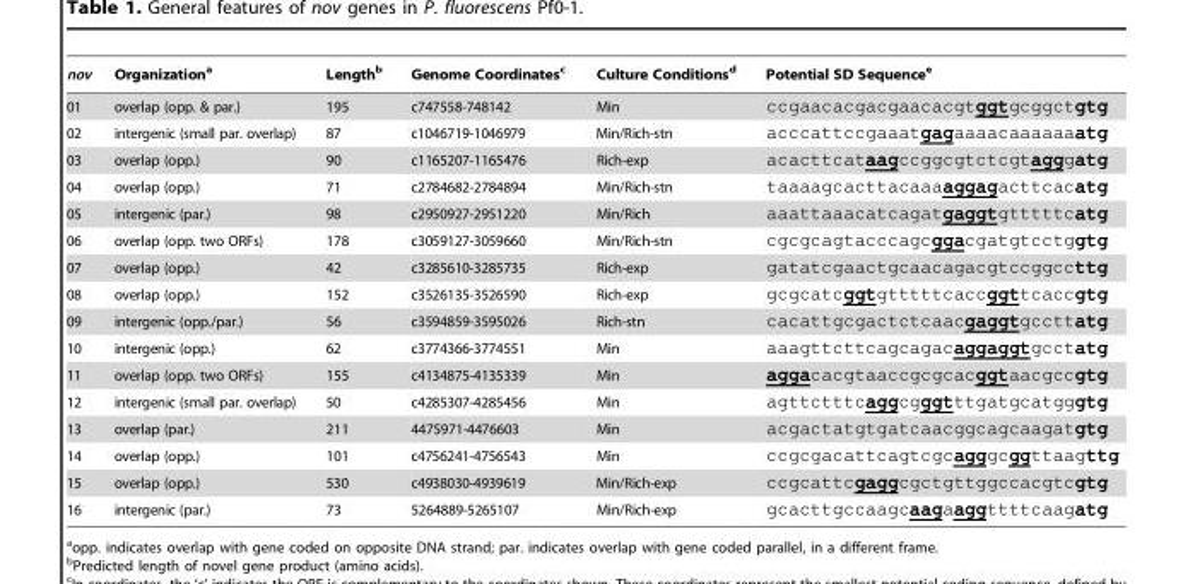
<table><thead><tr><td>nov</td><td>Organization<sup>a</sup></td><td>Length<sup>b</sup></td><td>Genome Coordinates<sup>c</sup></td><td>Culture Conditions<sup>d</sup></td><td>Potential SD Sequence<sup>e</sup></td></tr></thead><tbody><tr><td>01</td><td>overlap (opp. &amp; par.)</td><td>195</td><td>c747558-748142</td><td>Min</td><td>ccgaacacgacgaacacgtggtgcggctggtg</td></tr><tr><td>02</td><td>intergenic (small par. overlap)</td><td>87</td><td>c1046719-1046979</td><td>Min/Rich-stn</td><td>acccattccgaaatgagaaaacaaaaaaaatg</td></tr><tr><td>03</td><td>overlap (opp.)</td><td>90</td><td>c1165207-1165476</td><td>Rich-exp</td><td>acacttcataagccggcgtctcgtagggaatg</td></tr><tr><td>04</td><td>overlap (opp.)</td><td>71</td><td>c2784682-2784894</td><td>Min/Rich-stn</td><td>taaaagcacttacaaaaggagacttcacaatg</td></tr><tr><td>05</td><td>intergenic (par.)</td><td>98</td><td>c2950927-2951220</td><td>Min/Rich</td><td>aaattaaacatcagatgaggtgtttttcaatg</td></tr><tr><td>06</td><td>overlap (opp. two ORFs)</td><td>178</td><td>c3059127-3059660</td><td>Min/Rich-stn</td><td>cgcgcagtacccagcggacgatgtcctgggtg</td></tr><tr><td>07</td><td>overlap (opp.)</td><td>42</td><td>c3285610-3285735</td><td>Rich-exp</td><td>gatatcgaactgcaacagacgtccggcctttg</td></tr><tr><td>08</td><td>overlap (opp.)</td><td>152</td><td>c3526135-3526590</td><td>Rich-exp</td><td>gcgcatcggtgtttttcaccggttcaccggtg</td></tr><tr><td>09</td><td>intergenic (opp./par.)</td><td>56</td><td>c3594859-3595026</td><td>Rich-stn</td><td>cacattgcgactctcaacgaggtgccttaatg</td></tr><tr><td>10</td><td>intergenic (opp.)</td><td>62</td><td>c3774366-3774551</td><td>Min</td><td>aaagttcttcagcagacaggaggtgcctaatg</td></tr><tr><td>11</td><td>overlap (opp. two ORFs)</td><td>155</td><td>c4134875-4135339</td><td>Min</td><td>aggacacgtaaccgcgcacggtaacgccggtg</td></tr><tr><td>12</td><td>intergenic (small par. overlap)</td><td>50</td><td>c4285307-4285456</td><td>Min</td><td>agttctttcaggcgggtttgatgcatggggtg</td></tr><tr><td>13</td><td>overlap (par.)</td><td>211</td><td>4475971-4476603</td><td>Min</td><td>acgactatgtgatcaacggcagcaagatggtg</td></tr><tr><td>14</td><td>overlap (opp.)</td><td>101</td><td>c4756241-4756543</td><td>Min</td><td>ccgcgacattcagtcgcagggcggttaagtttg</td></tr><tr><td>15</td><td>overlap (opp.)</td><td>530</td><td>c4938030-4939619</td><td>Min/Rich-exp</td><td>ccgcattcgaggcgctgttggccacgtcggtg</td></tr><tr><td>16</td><td>intergenic (par.)</td><td>73</td><td>5264889-5265107</td><td>Min/Rich-exp</td><td>gcacttgccaagcaagaaggttttcaagaatg</td></tr></tbody></table>